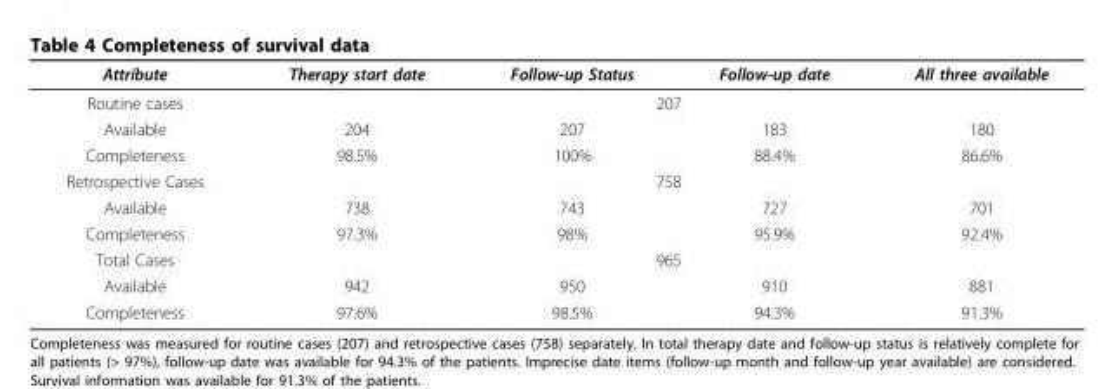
<table><thead><tr><td>Attribute</td><td>Therapy start date</td><td>Follow-up Status</td><td>Follow-up date</td><td>All three available</td></tr></thead><tbody><tr><td>Routine cases</td><td colspan="4">207</td></tr><tr><td>Available</td><td>204</td><td>207</td><td>183</td><td>180</td></tr><tr><td>Completeness</td><td>98.5%</td><td>100%</td><td>88.4%</td><td>86.6%</td></tr><tr><td>Retrospective Cases</td><td colspan="4">758</td></tr><tr><td>Available</td><td>738</td><td>743</td><td>727</td><td>701</td></tr><tr><td>Completeness</td><td>97.3%</td><td>98%</td><td>95.9%</td><td>92.4%</td></tr><tr><td>Total Cases</td><td colspan="4">965</td></tr><tr><td>Available</td><td>942</td><td>950</td><td>910</td><td>881</td></tr><tr><td>Completeness</td><td>97.6%</td><td>98.5%</td><td>94.3%</td><td>91.3%</td></tr></tbody></table>